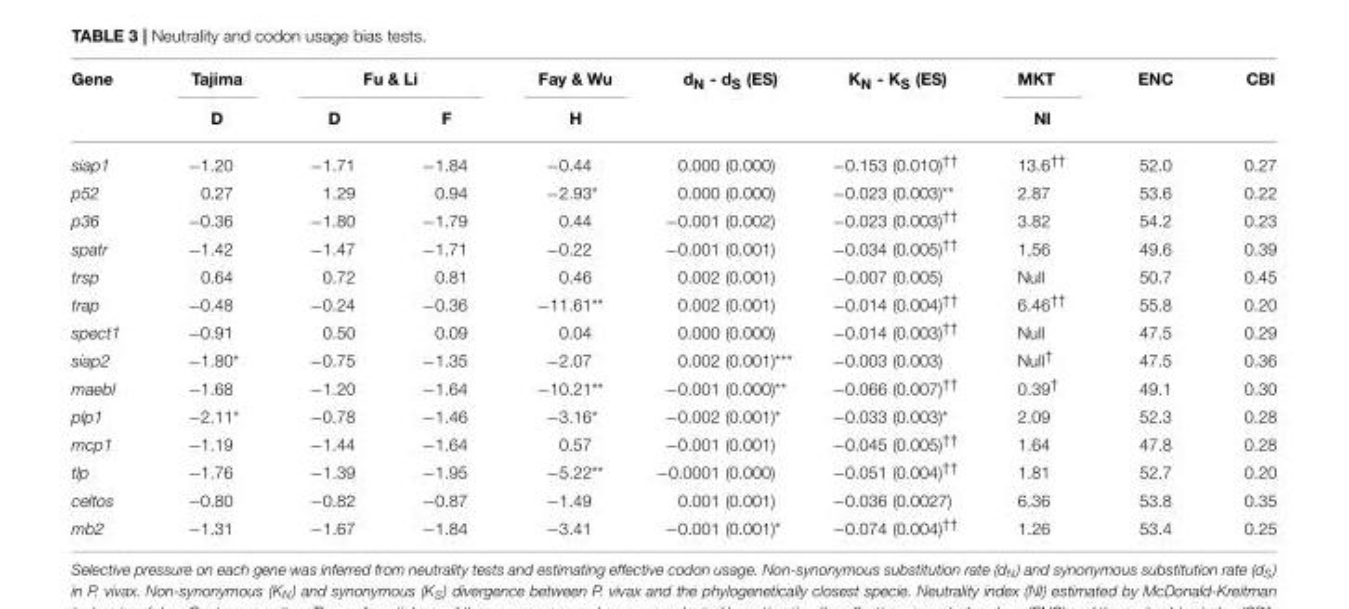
<table><thead><tr><td rowspan="2">Gene</td><td rowspan="2">Tajima D</td><td colspan="2">Fu &amp; Li</td><td rowspan="2">Fay &amp; Wu H</td><td rowspan="2">d<sub>N</sub> - d<sub>S</sub> (ES)</td><td rowspan="2">K<sub>N</sub> - K<sub>S</sub> (ES)</td><td rowspan="2">MKT NI</td><td rowspan="2">ENC</td><td rowspan="2">CBI</td></tr><tr><td>D</td><td>F</td></tr></thead><tbody><tr><td>siap1</td><td>−1.20</td><td>−1.71</td><td>−1.84</td><td>−0.44</td><td>0.000 (0.000)</td><td>−0.153 (0.010)<sup>††</sup></td><td>13.6<sup>††</sup></td><td>52.0</td><td>0.27</td></tr><tr><td>p52</td><td>0.27</td><td>1.29</td><td>0.94</td><td>−2.93*</td><td>0.000 (0.000)</td><td>−0.023 (0.003)**</td><td>2.87</td><td>53.6</td><td>0.22</td></tr><tr><td>p36</td><td>−0.36</td><td>−1.80</td><td>−1.79</td><td>0.44</td><td>−0.001 (0.002)</td><td>−0.023 (0.003)<sup>††</sup></td><td>3.82</td><td>54.2</td><td>0.23</td></tr><tr><td>spatr</td><td>−1.42</td><td>−1.47</td><td>−1.71</td><td>−0.22</td><td>−0.001 (0.001)</td><td>−0.034 (0.005)<sup>††</sup></td><td>1,56</td><td>49.6</td><td>0.39</td></tr><tr><td>trsp</td><td>0.64</td><td>0.72</td><td>0.81</td><td>0.46</td><td>0.002 (0.001)</td><td>−0.007 (0.005)</td><td>Null</td><td>50.7</td><td>0.45</td></tr><tr><td>trap</td><td>−0.48</td><td>−0.24</td><td>−0.36</td><td>−11.61**</td><td>0.002 (0.001)</td><td>−0.014 (0.004)<sup>††</sup></td><td>6.46<sup>††</sup></td><td>55.8</td><td>0.20</td></tr><tr><td>spect1</td><td>−0.91</td><td>0.50</td><td>0.09</td><td>0.04</td><td>0.000 (0.000)</td><td>−0.014 (0.003)<sup>††</sup></td><td>Null</td><td>47.5</td><td>0.29</td></tr><tr><td>siap2</td><td>−1.80*</td><td>−0.75</td><td>−1.35</td><td>−2.07</td><td>0.002 (0.001)***</td><td>−0.003 (0.003)</td><td>Null<sup>†</sup></td><td>47.5</td><td>0.36</td></tr><tr><td>maebl</td><td>−1.68</td><td>−1.20</td><td>−1.64</td><td>−10.21**</td><td>−0.001 (0.000)**</td><td>−0.066 (0.007)<sup>††</sup></td><td>0.39<sup>†</sup></td><td>49.1</td><td>0.30</td></tr><tr><td>plp1</td><td>−2.11*</td><td>−0.78</td><td>−1.46</td><td>−3.16*</td><td>−0.002 (0.001)*</td><td>−0.033 (0.003)*</td><td>2.09</td><td>52.3</td><td>0.28</td></tr><tr><td>mcp1</td><td>−1.19</td><td>−1.44</td><td>−1.64</td><td>0.57</td><td>−0.001 (0.001)</td><td>−0.045 (0.005)<sup>††</sup></td><td>1.64</td><td>47.8</td><td>0.28</td></tr><tr><td>tlp</td><td>−1.76</td><td>−1.39</td><td>−1.95</td><td>−5.22**</td><td>−0.0001 (0.000)</td><td>−0.051 (0.004)<sup>††</sup></td><td>1.81</td><td>52.7</td><td>0.20</td></tr><tr><td>celtos</td><td>−0.80</td><td>−0.82</td><td>−0.87</td><td>−1.49</td><td>0.001 (0.001)</td><td>−0.036 (0.0027)</td><td>6.36</td><td>53.8</td><td>0.35</td></tr><tr><td>mb2</td><td>−1.31</td><td>−1.67</td><td>−1.84</td><td>−3.41</td><td>−0.001 (0.001)*</td><td>−0.074 (0.004)<sup>††</sup></td><td>1.26</td><td>53.4</td><td>0.25</td></tr></tbody></table>